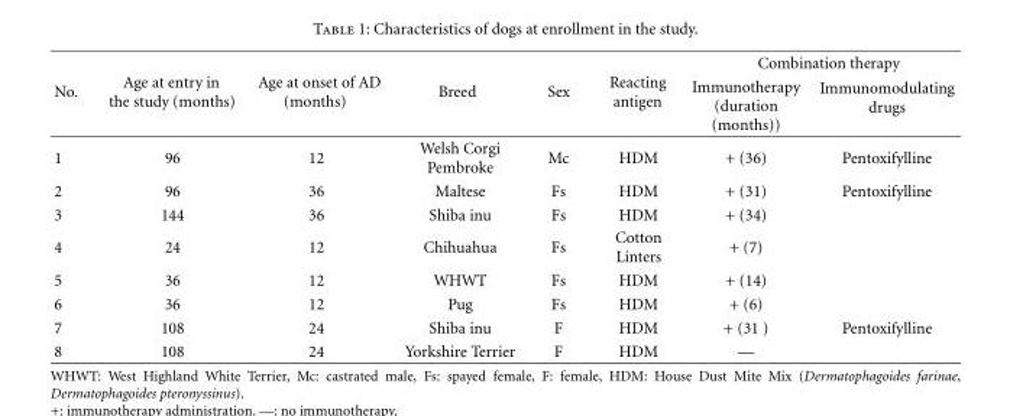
<table><thead><tr><td rowspan="2">No.</td><td rowspan="2">Age at entry in the study (months)</td><td rowspan="2">Age at onset of AD (months)</td><td rowspan="2">Breed</td><td rowspan="2">Sex</td><td rowspan="2">Reacting antigen</td><td colspan="2">Combination therapy</td></tr><tr><td>Immunotherapy (duration (months))</td><td>Immunomodulating drugs</td></tr></thead><tbody><tr><td>1</td><td>96</td><td>12</td><td>Welsh Corgi Pembroke</td><td>Mc</td><td>HDM</td><td>+ (36)</td><td>Pentoxifylline</td></tr><tr><td>2</td><td>96</td><td>36</td><td>Maltese</td><td>Fs</td><td>HDM</td><td>+ (31)</td><td>Pentoxifylline</td></tr><tr><td>3</td><td>144</td><td>36</td><td>Shiba inu</td><td>Fs</td><td>HDM</td><td>+ (34)</td><td></td></tr><tr><td>4</td><td>24</td><td>12</td><td>Chihuahua</td><td>Fs</td><td>Cotton Linters</td><td>+ (7)</td><td></td></tr><tr><td>5</td><td>36</td><td>12</td><td>WHWT</td><td>Fs</td><td>HDM</td><td>+ (14)</td><td></td></tr><tr><td>6</td><td>36</td><td>12</td><td>Pug</td><td>Fs</td><td>HDM</td><td>+ (6)</td><td></td></tr><tr><td>7</td><td>108</td><td>24</td><td>Shiba inu</td><td>F</td><td>HDM</td><td>+ (31 )</td><td>Pentoxifylline</td></tr><tr><td>8</td><td>108</td><td>24</td><td>Yorkshire Terrier</td><td>F</td><td>HDM</td><td>—</td><td></td></tr></tbody></table>